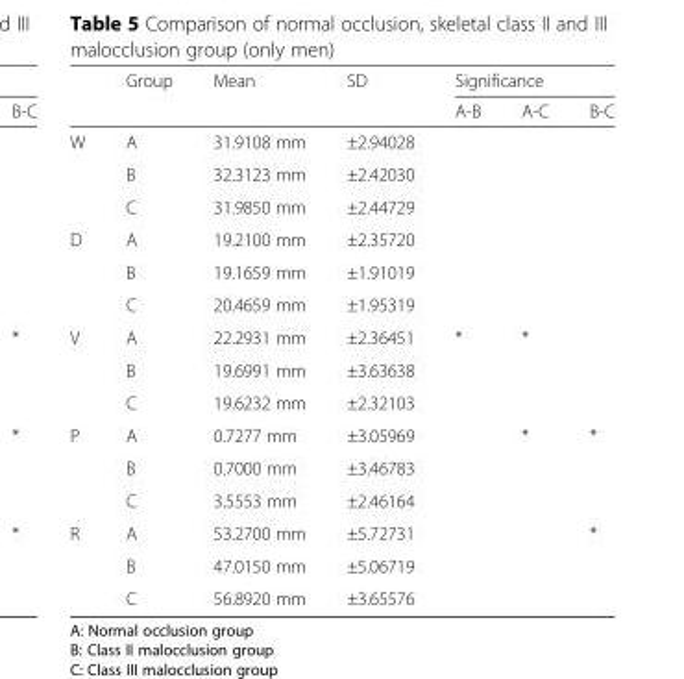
<table><thead><tr><td rowspan="2"></td><td rowspan="2">Group</td><td rowspan="2">Mean</td><td rowspan="2">SD</td><td colspan="3">Significance</td></tr><tr><td>A-B</td><td>A-C</td><td>B-C</td></tr></thead><tbody><tr><td rowspan="3">W</td><td>A</td><td>31.9108 mm</td><td>±2.94028</td><td rowspan="3"></td><td rowspan="3"></td><td rowspan="3"></td></tr><tr><td>B</td><td>32.3123 mm</td><td>±2.42030</td></tr><tr><td>C</td><td>31.9850 mm</td><td>±2.44729</td></tr><tr><td rowspan="3">D</td><td>A</td><td>19.2100 mm</td><td>±2.35720</td><td rowspan="3"></td><td rowspan="3"></td><td rowspan="3"></td></tr><tr><td>B</td><td>19.1659 mm</td><td>±1.91019</td></tr><tr><td>C</td><td>20.4659 mm</td><td>±1.95319</td></tr><tr><td rowspan="3">V</td><td>A</td><td>22.2931 mm</td><td>±2.36451</td><td rowspan="3">*</td><td rowspan="3">*</td><td rowspan="3"></td></tr><tr><td>B</td><td>19.6991 mm</td><td>±3.63638</td></tr><tr><td>C</td><td>19.6232 mm</td><td>±2.32103</td></tr><tr><td rowspan="3">P</td><td>A</td><td>0.7277 mm</td><td>±3.05969</td><td rowspan="3"></td><td rowspan="3">*</td><td rowspan="3">*</td></tr><tr><td>B</td><td>0.7000 mm</td><td>±3.46783</td></tr><tr><td>C</td><td>3.5553 mm</td><td>±2.46164</td></tr><tr><td rowspan="3">R</td><td>A</td><td>53.2700 mm</td><td>±5.72731</td><td rowspan="3"></td><td rowspan="3"></td><td rowspan="3">*</td></tr><tr><td>B</td><td>47.0150 mm</td><td>±5.06719</td></tr><tr><td>C</td><td>56.8920 mm</td><td>±3.65576</td></tr></tbody></table>